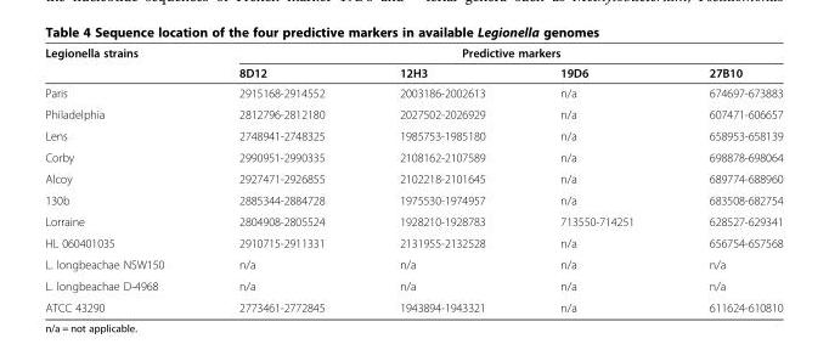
<table><thead><tr><td rowspan="2">Legionella strains</td><td colspan="4">Predictive markers</td></tr><tr><td>8D12</td><td>12H3</td><td>19D6</td><td>27B10</td></tr></thead><tbody><tr><td>Paris</td><td>2915168-2914552</td><td>2003186-2002613</td><td>n/a</td><td>674697-673883</td></tr><tr><td>Philadelphia</td><td>2812796-2812180</td><td>2027502-2026929</td><td>n/a</td><td>607471-606657</td></tr><tr><td>Lens</td><td>2748941-2748325</td><td>1985753-1985180</td><td>n/a</td><td>658953-658139</td></tr><tr><td>Corby</td><td>2990951-2990335</td><td>2108162-2107589</td><td>n/a</td><td>698878-698064</td></tr><tr><td>Alcoy</td><td>2927471-2926855</td><td>2102218-2101645</td><td>n/a</td><td>689774-688960</td></tr><tr><td>130b</td><td>2885344-2884728</td><td>1975530-1974957</td><td>n/a</td><td>683508-682754</td></tr><tr><td>Lorraine</td><td>2804908-2805524</td><td>1928210-1928783</td><td>713550-714251</td><td>628527-629341</td></tr><tr><td>HL 060401035</td><td>2910715-2911331</td><td>2131955-2132528</td><td>n/a</td><td>656754-657568</td></tr><tr><td>L. longbeachae NSW150</td><td>n/a</td><td>n/a</td><td>n/a</td><td>n/a</td></tr><tr><td>L. longbeachae D-4968</td><td>n/a</td><td>n/a</td><td>n/a</td><td>n/a</td></tr><tr><td>ATCC 43290</td><td>2773461-2772845</td><td>1943894-1943321</td><td>n/a</td><td>611624-610810</td></tr></tbody></table>